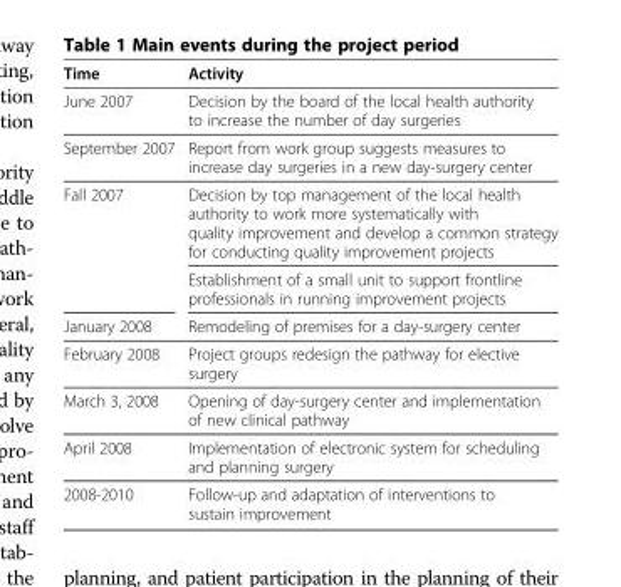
<table><thead><tr><td>Time</td><td>Activity</td></tr></thead><tbody><tr><td>June 2007</td><td>Decision by the board of the local health authority to increase the number of day surgeries</td></tr><tr><td>September 2007</td><td>Report from work group suggests measures to increase day surgeries in a new day-surgery center</td></tr><tr><td rowspan="2">Fall 2007</td><td>Decision by top management of the local health authority to work more systematically with quality improvement and develop a common strategy for conducting quality improvement projects</td></tr><tr><td>Establishment of a small unit to support frontline professionals in running improvement projects</td></tr><tr><td>January 2008</td><td>Remodeling of premises for a day-surgery center</td></tr><tr><td>February 2008</td><td>Project groups redesign the pathway for elective surgery</td></tr><tr><td>March 3, 2008</td><td>Opening of day-surgery center and implementation of new clinical pathway</td></tr><tr><td>April 2008</td><td>Implementation of electronic system for scheduling and planning surgery</td></tr><tr><td>2008-2010</td><td>Follow-up and adaptation of interventions to sustain improvement</td></tr></tbody></table>